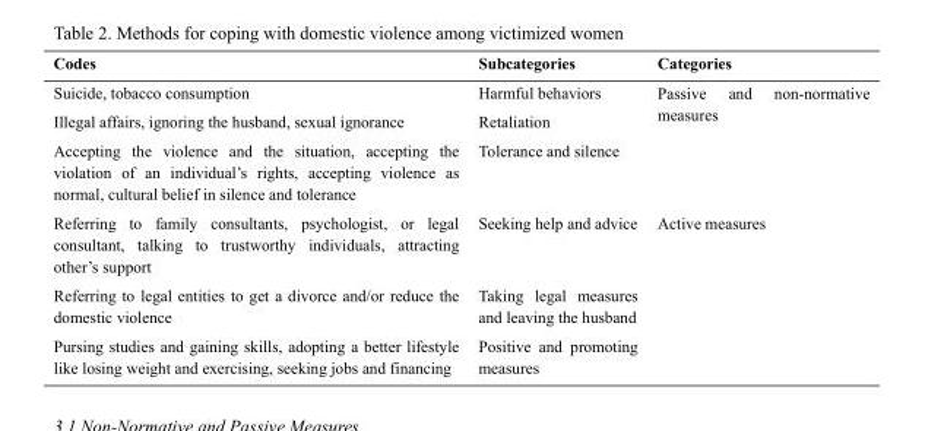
<table><thead><tr><td>Codes</td><td>Subcategories</td><td>Categories</td></tr></thead><tbody><tr><td>Suicide, tobacco consumption</td><td>Harmful behaviors</td><td rowspan="3">Passive and non-normative measures</td></tr><tr><td>Illegal affairs, ignoring the husband, sexual ignorance</td><td>Retaliation</td></tr><tr><td>Accepting the violence and the situation, accepting the violation of an individual’s rights, accepting violence as normal, cultural belief in silence and tolerance</td><td>Tolerance and silence</td></tr><tr><td>Referring to family consultants, psychologist, or legal consultant, talking to trustworthy individuals, attracting other’s support</td><td>Seeking help and advice</td><td rowspan="3">Active measures</td></tr><tr><td>Referring to legal entities to get a divorce and/or reduce the domestic violence</td><td>Taking legal measures and leaving the husband</td></tr><tr><td>Pursing studies and gaining skills, adopting a better lifestyle like losing weight and exercising, seeking jobs and financing</td><td>Positive and promoting measures</td></tr></tbody></table>